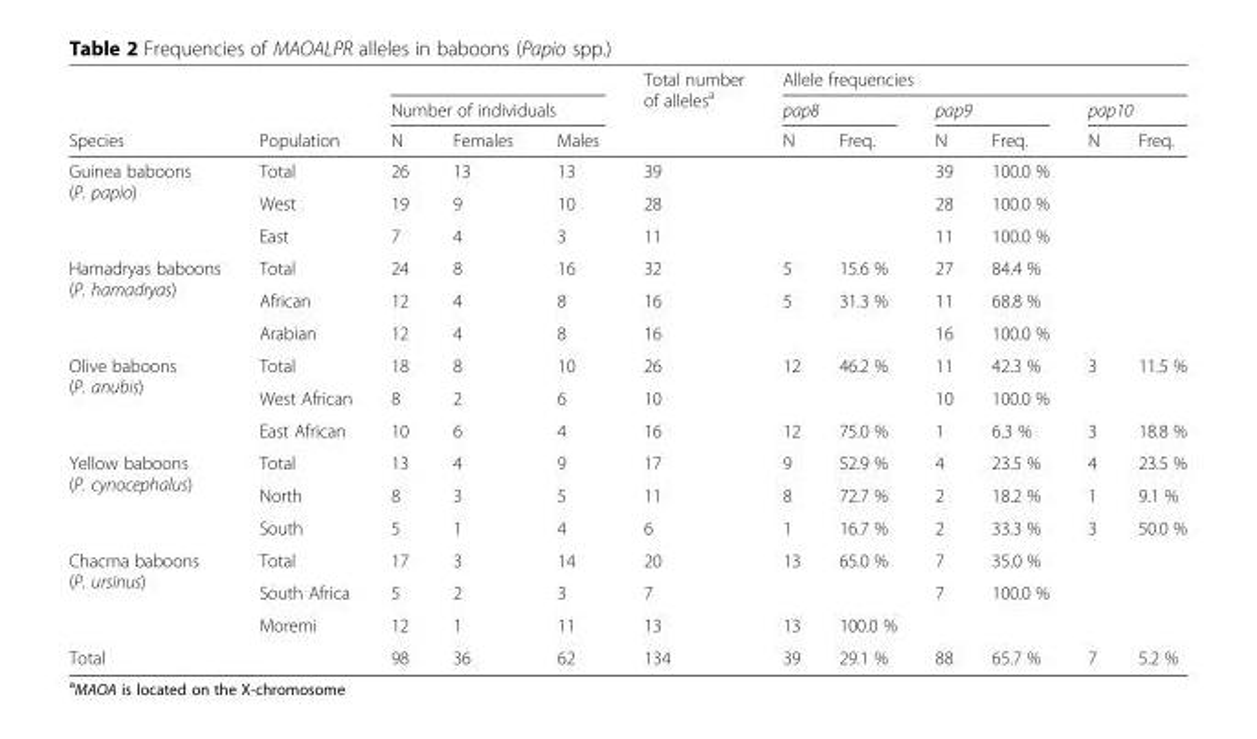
<table><thead><tr><td rowspan="3">Species</td><td rowspan="3">Population</td><td></td><td></td><td></td><td rowspan="3">Total number of alleles<sup>a</sup></td><td colspan="6">Allele frequencies</td></tr><tr><td colspan="3">Number of individuals</td><td colspan="2">pap8</td><td colspan="2">pap9</td><td colspan="2">pap10</td></tr><tr><td>N</td><td>Females</td><td>Males</td><td>N</td><td>Freq.</td><td>N</td><td>Freq.</td><td>N</td><td>Freq.</td></tr></thead><tbody><tr><td rowspan="3">Guinea baboons (P. papio)</td><td>Total</td><td>26</td><td>13</td><td>13</td><td>39</td><td></td><td></td><td>39</td><td>100.0 %</td><td></td><td></td></tr><tr><td>West</td><td>19</td><td>9</td><td>10</td><td>28</td><td></td><td></td><td>28</td><td>100.0 %</td><td></td><td></td></tr><tr><td>East</td><td>7</td><td>4</td><td>3</td><td>11</td><td></td><td></td><td>11</td><td>100.0 %</td><td></td><td></td></tr><tr><td rowspan="3">Hamadryas baboons (P. hamadryas)</td><td>Total</td><td>24</td><td>8</td><td>16</td><td>32</td><td>5</td><td>15.6 %</td><td>27</td><td>84.4 %</td><td></td><td></td></tr><tr><td>African</td><td>12</td><td>4</td><td>8</td><td>16</td><td>5</td><td>31.3 %</td><td>11</td><td>68.8 %</td><td></td><td></td></tr><tr><td>Arabian</td><td>12</td><td>4</td><td>8</td><td>16</td><td></td><td></td><td>16</td><td>100.0 %</td><td></td><td></td></tr><tr><td rowspan="3">Olive baboons (P. anubis)</td><td>Total</td><td>18</td><td>8</td><td>10</td><td>26</td><td>12</td><td>46.2 %</td><td>11</td><td>42.3 %</td><td>3</td><td>11.5 %</td></tr><tr><td>West African</td><td>8</td><td>2</td><td>6</td><td>10</td><td></td><td></td><td>10</td><td>100.0 %</td><td></td><td></td></tr><tr><td>East African</td><td>10</td><td>6</td><td>4</td><td>16</td><td>12</td><td>75.0 %</td><td>1</td><td>6.3 %</td><td>3</td><td>18.8 %</td></tr><tr><td rowspan="3">Yellow baboons (P. cynocephalus)</td><td>Total</td><td>13</td><td>4</td><td>9</td><td>17</td><td>9</td><td>52.9 %</td><td>4</td><td>23.5 %</td><td>4</td><td>23.5 %</td></tr><tr><td>North</td><td>8</td><td>3</td><td>5</td><td>11</td><td>8</td><td>72.7 %</td><td>2</td><td>18.2 %</td><td>1</td><td>9.1 %</td></tr><tr><td>South</td><td>5</td><td>1</td><td>4</td><td>6</td><td>1</td><td>16.7 %</td><td>2</td><td>33.3 %</td><td>3</td><td>50.0 %</td></tr><tr><td rowspan="3">Chacma baboons (P. ursinus)</td><td>Total</td><td>17</td><td>3</td><td>14</td><td>20</td><td>13</td><td>65.0 %</td><td>7</td><td>35.0 %</td><td></td><td></td></tr><tr><td>South Africa</td><td>5</td><td>2</td><td>3</td><td>7</td><td></td><td></td><td>7</td><td>100.0 %</td><td></td><td></td></tr><tr><td>Moremi</td><td>12</td><td>1</td><td>11</td><td>13</td><td>13</td><td>100.0 %</td><td></td><td></td><td></td><td></td></tr><tr><td>Total</td><td></td><td>98</td><td>36</td><td>62</td><td>134</td><td>39</td><td>29.1 %</td><td>88</td><td>65.7 %</td><td>7</td><td>5.2 %</td></tr></tbody></table>